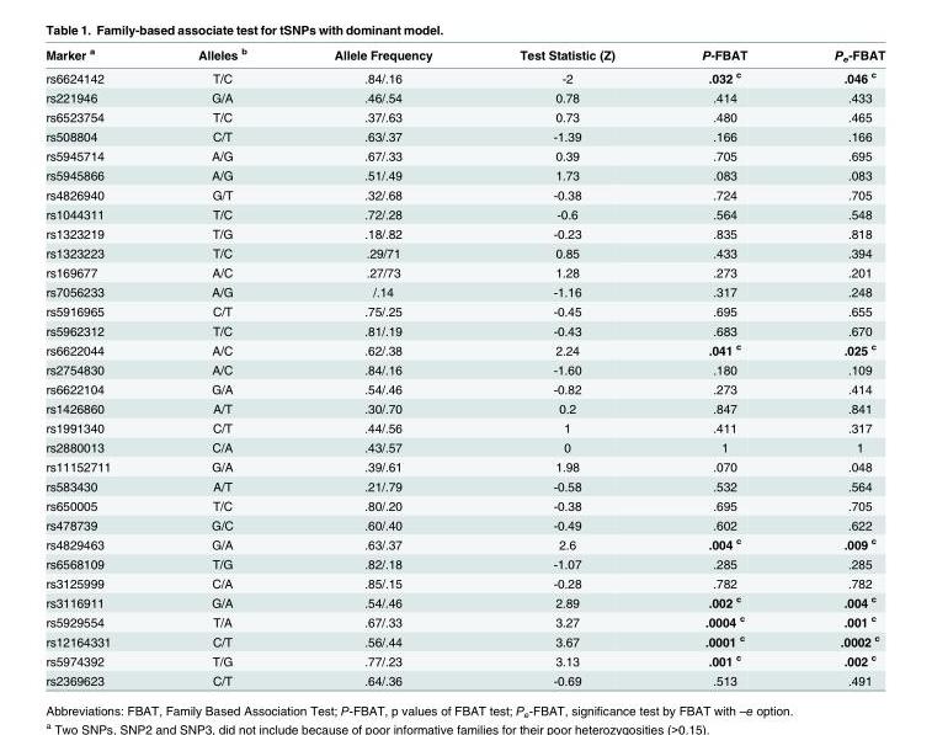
<table><thead><tr><td>Marker <sup>a</sup></td><td>Alleles <sup>b</sup></td><td>Allele Frequency</td><td>Test Statistic (Z)</td><td>P-FBAT</td><td>P<sub>e</sub>-FBAT</td></tr></thead><tbody><tr><td>rs6624142</td><td>T/C</td><td>.84/.16</td><td>-2</td><td>.032 <sup>c</sup></td><td>.046 <sup>c</sup></td></tr><tr><td>rs221946</td><td>G/A</td><td>.46/.54</td><td>0.78</td><td>.414</td><td>.433</td></tr><tr><td>rs6523754</td><td>T/C</td><td>.37/.63</td><td>0.73</td><td>.480</td><td>.465</td></tr><tr><td>rs508804</td><td>C/T</td><td>.63/.37</td><td>-1.39</td><td>.166</td><td>.166</td></tr><tr><td>rs5945714</td><td>A/G</td><td>.67/.33</td><td>0.39</td><td>.705</td><td>.695</td></tr><tr><td>rs5945866</td><td>A/G</td><td>.51/.49</td><td>1.73</td><td>.083</td><td>.083</td></tr><tr><td>rs4826940</td><td>G/T</td><td>.32/.68</td><td>-0.38</td><td>.724</td><td>.705</td></tr><tr><td>rs1044311</td><td>T/C</td><td>.72/.28</td><td>-0.6</td><td>.564</td><td>.548</td></tr><tr><td>rs1323219</td><td>T/G</td><td>.18/.82</td><td>-0.23</td><td>.835</td><td>.818</td></tr><tr><td>rs1323223</td><td>T/C</td><td>.29/71</td><td>0.85</td><td>.433</td><td>.394</td></tr><tr><td>rs169677</td><td>A/C</td><td>.27/73</td><td>1.28</td><td>.273</td><td>.201</td></tr><tr><td>rs7056233</td><td>A/G</td><td>/.14</td><td>-1.16</td><td>.317</td><td>.248</td></tr><tr><td>rs5916965</td><td>C/T</td><td>.75/.25</td><td>-0.45</td><td>.695</td><td>.655</td></tr><tr><td>rs5962312</td><td>T/C</td><td>.81/.19</td><td>-0.43</td><td>.683</td><td>.670</td></tr><tr><td>rs6622044</td><td>A/C</td><td>.62/.38</td><td>2.24</td><td>.041 <sup>c</sup></td><td>.025 <sup>c</sup></td></tr><tr><td>rs2754830</td><td>A/C</td><td>.84/.16</td><td>-1.60</td><td>.180</td><td>.109</td></tr><tr><td>rs6622104</td><td>G/A</td><td>.54/.46</td><td>-0.82</td><td>.273</td><td>.414</td></tr><tr><td>rs1426860</td><td>A/T</td><td>.30/.70</td><td>0.2</td><td>.847</td><td>.841</td></tr><tr><td>rs1991340</td><td>C/T</td><td>.44/.56</td><td>1</td><td>.411</td><td>.317</td></tr><tr><td>rs2880013</td><td>C/A</td><td>.43/.57</td><td>0</td><td>1</td><td>1</td></tr><tr><td>rs11152711</td><td>G/A</td><td>.39/.61</td><td>1.98</td><td>.070</td><td>.048</td></tr><tr><td>rs583430</td><td>A/T</td><td>.21/.79</td><td>-0.58</td><td>.532</td><td>.564</td></tr><tr><td>rs650005</td><td>T/C</td><td>.80/.20</td><td>-0.38</td><td>.695</td><td>.705</td></tr><tr><td>rs478739</td><td>G/C</td><td>.60/.40</td><td>-0.49</td><td>.602</td><td>.622</td></tr><tr><td>rs4829463</td><td>G/A</td><td>.63/.37</td><td>2.6</td><td>.004 <sup>c</sup></td><td>.009 <sup>c</sup></td></tr><tr><td>rs6568109</td><td>T/G</td><td>.82/.18</td><td>-1.07</td><td>.285</td><td>.285</td></tr><tr><td>rs3125999</td><td>C/A</td><td>.85/.15</td><td>-0.28</td><td>.782</td><td>.782</td></tr><tr><td>rs3116911</td><td>G/A</td><td>.54/.46</td><td>2.89</td><td>.002 <sup>c</sup></td><td>.004 <sup>c</sup></td></tr><tr><td>rs5929554</td><td>T/A</td><td>.67/.33</td><td>3.27</td><td>.0004 <sup>c</sup></td><td>.001 <sup>c</sup></td></tr><tr><td>rs12164331</td><td>C/T</td><td>.56/.44</td><td>3.67</td><td>.0001 <sup>c</sup></td><td>.0002 <sup>c</sup></td></tr><tr><td>rs5974392</td><td>T/G</td><td>.77/.23</td><td>3.13</td><td>.001 <sup>c</sup></td><td>.002 <sup>c</sup></td></tr><tr><td>rs2369623</td><td>C/T</td><td>.64/.36</td><td>-0.69</td><td>.513</td><td>.491</td></tr></tbody></table>